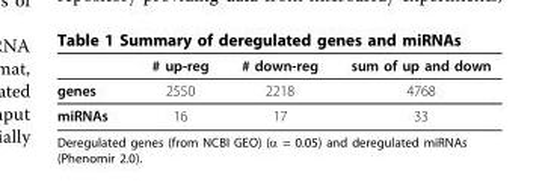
<table><thead><tr><td></td><td># up-reg</td><td># down-reg</td><td>sum of up and down</td></tr></thead><tbody><tr><td>genes</td><td>2550</td><td>2218</td><td>4768</td></tr><tr><td>miRNAs</td><td>16</td><td>17</td><td>33</td></tr></tbody></table>